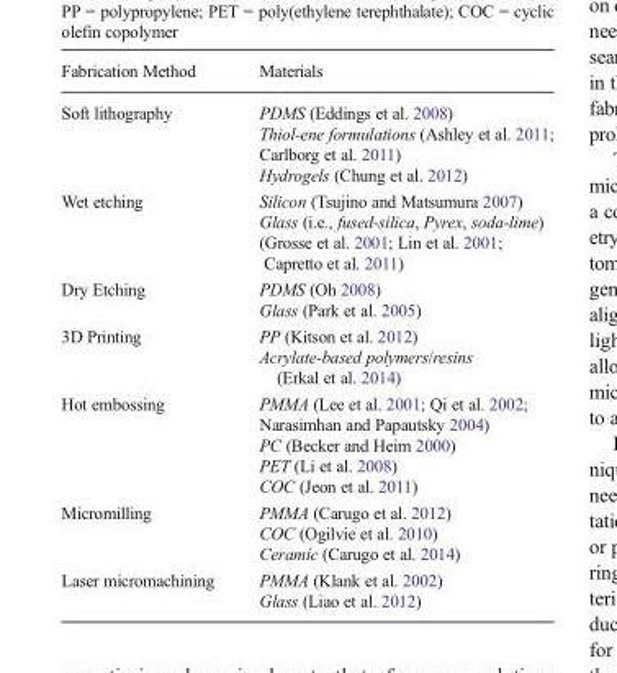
<table><thead><tr><td>Fabrication Method</td><td>Materials</td></tr></thead><tbody><tr><td>Soft lithography</td><td>PDMS (Eddings et al. 2008) Thiol-ene formulations (Ashley et al. 2011; Carlborg et al. 2011) Hydrogels (Chung et al. 2012)</td></tr><tr><td>Wet etching</td><td>Silicon (Tsujino and Matsumura 2007) Glass (i.e., fused-silica, Pyrex, soda-lime) (Grosse et al. 2001; Lin et al. 2001; Capretto et al. 2011)</td></tr><tr><td>Dry Etching</td><td>PDMS (Oh 2008) Glass (Park et al. 2005)</td></tr><tr><td>3D Printing</td><td>PP (Kitson et al. 2012) Acrylate-based polymers/resins (Erkal et al. 2014)</td></tr><tr><td>Hot embossing</td><td>PMMA (Lee et al. 2001; Qi et al. 2002; Narasimhan and Papautsky 2004) PC (Becker and Heim 2000) PET (Li et al. 2008) COC (Jeon et al. 2011)</td></tr><tr><td>Micromilling</td><td>PMMA (Carugo et al. 2012) COC (Ogilvie et al. 2010) Ceramic (Carugo et al. 2014)</td></tr><tr><td>Laser micromachining</td><td>PMMA (Klank et al. 2002) Glass (Liao et al. 2012)</td></tr></tbody></table>